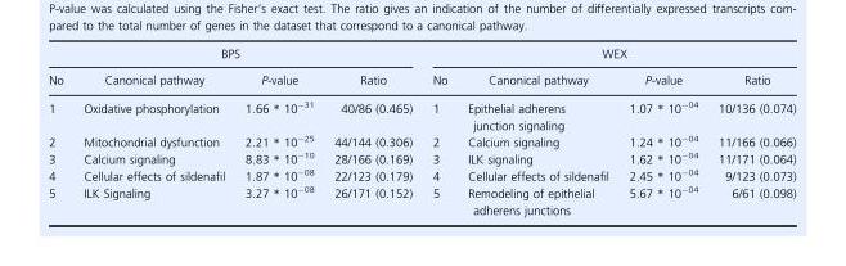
<table><thead><tr><td rowspan="2">No</td><td colspan="3">BPS</td><td rowspan="2">No</td><td colspan="3">WEX</td></tr><tr><td>Canonical pathway</td><td>P-value</td><td>Ratio</td><td>Canonical pathway</td><td>P-value</td><td>Ratio</td></tr></thead><tbody><tr><td>1</td><td>Oxidative phosphorylation</td><td>1.66 * 10<sup>−31</sup></td><td>40/86 (0.465)</td><td>1</td><td>Epithelial adherens junction signaling</td><td>1.07 * 10<sup>−04</sup></td><td>10/136 (0.074)</td></tr><tr><td>2</td><td>Mitochondrial dysfunction</td><td>2.21 * 10<sup>−25</sup></td><td>44/144 (0.306)</td><td>2</td><td>Calcium signaling</td><td>1.24 * 10<sup>−04</sup></td><td>11/166 (0.066)</td></tr><tr><td>3</td><td>Calcium signaling</td><td>8.83 * 10<sup>−10</sup></td><td>28/166 (0.169)</td><td>3</td><td>ILK signaling</td><td>1.62 * 10<sup>−04</sup></td><td>11/171 (0.064)</td></tr><tr><td>4</td><td>Cellular effects of sildenafil</td><td>1.87 * 10<sup>−08</sup></td><td>22/123 (0.179)</td><td>4</td><td>Cellular effects of sildenafil</td><td>2.45 * 10<sup>−04</sup></td><td>9/123 (0.073)</td></tr><tr><td>5</td><td>ILK Signaling</td><td>3.27 * 10<sup>−08</sup></td><td>26/171 (0.152)</td><td>5</td><td>Remodeling of epithelial adherens junctions</td><td>5.67 * 10<sup>−04</sup></td><td>6/61 (0.098)</td></tr></tbody></table>